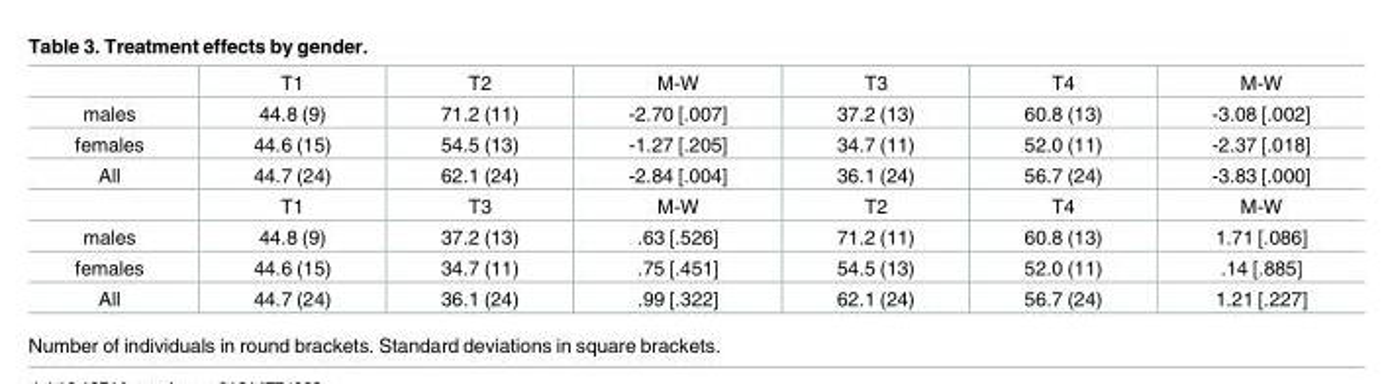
<table><thead><tr><td></td><td>T1</td><td>T2</td><td>M-W</td><td>T3</td><td>T4</td><td>M-W</td></tr></thead><tbody><tr><td>males</td><td>44.8 (9)</td><td>71.2 (11)</td><td>-2.70 [.007]</td><td>37.2 (13)</td><td>60.8 (13)</td><td>-3.08 [.002]</td></tr><tr><td>females</td><td>44.6 (15)</td><td>54.5 (13)</td><td>-1.27 [.205]</td><td>34.7 (11)</td><td>52.0 (11)</td><td>-2.37 [.018]</td></tr><tr><td rowspan="2">All</td><td>44.7 (24)</td><td>62.1 (24)</td><td>-2.84 [.004]</td><td>36.1 (24)</td><td>56.7 (24)</td><td>-3.83 [.000]</td></tr><tr><td>T1</td><td>T3</td><td>M-W</td><td>T2</td><td>T4</td><td>M-W</td></tr><tr><td>males</td><td>44.8 (9)</td><td>37.2 (13)</td><td>.63 [.526]</td><td>71.2 (11)</td><td>60.8 (13)</td><td>1.71 [.086]</td></tr><tr><td>females</td><td>44.6 (15)</td><td>34.7 (11)</td><td>.75 [.451]</td><td>54.5 (13)</td><td>52.0 (11)</td><td>.14 [.885]</td></tr><tr><td>All</td><td>44.7 (24)</td><td>36.1 (24)</td><td>.99 [.322]</td><td>62.1 (24)</td><td>56.7 (24)</td><td>1.21 [.227]</td></tr></tbody></table>